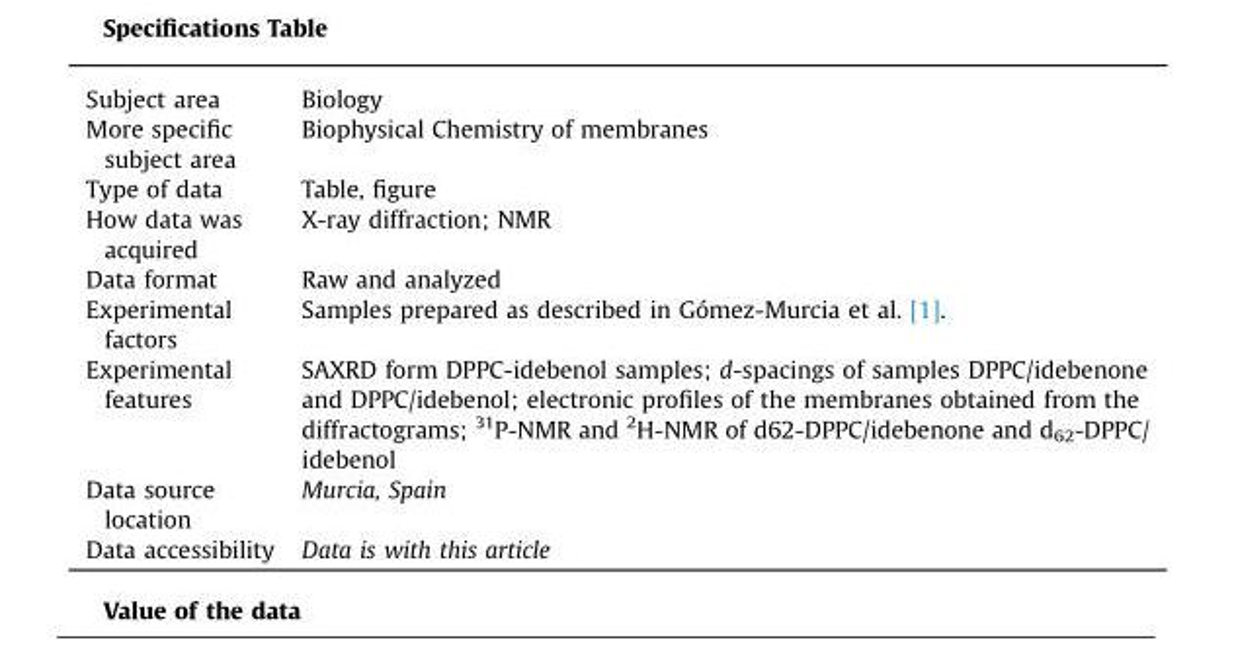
<table><tbody><tr><td>Subject area</td><td>Biology</td></tr><tr><td>More specific subject area</td><td>Biophysical Chemistry of membranes</td></tr><tr><td>Type of data</td><td>Table, figure</td></tr><tr><td>How data was acquired</td><td>X-ray diffraction; NMR</td></tr><tr><td>Data format</td><td>Raw and analyzed</td></tr><tr><td>Experimental factors</td><td>Samples prepared as described in Gómez-Murcia et al. [1].</td></tr><tr><td>Experimental features</td><td>SAXRD form DPPC-idebenol samples; d-spacings of samples DPPC/idebenone and DPPC/idebenol; electronic profiles of the membranes obtained from the diffractograms; <sup>31</sup>P-NMR and <sup>2</sup>H-NMR of d62-DPPC/idebenone and d<sub>62</sub>-DPPC/ idebenol</td></tr><tr><td>Data source location</td><td>Murcia, Spain</td></tr><tr><td>Data accessibility</td><td>Data is with this article</td></tr></tbody></table>